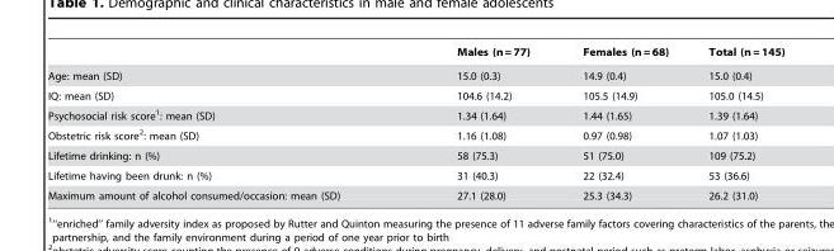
<table><thead><tr><td></td><td>Males (n = 77)</td><td>Females (n = 68)</td><td>Total (n = 145)</td></tr></thead><tbody><tr><td>Age: mean (SD)</td><td>15.0 (0.3)</td><td>14.9 (0.4)</td><td>15.0 (0.4)</td></tr><tr><td>IQ: mean (SD)</td><td>104.6 (14.2)</td><td>105.5 (14.9)</td><td>105.0 (14.5)</td></tr><tr><td>Psychosocial risk score<sup>1</sup>: mean (SD)</td><td>1.34 (1.64)</td><td>1.44 (1.65)</td><td>1.39 (1.64)</td></tr><tr><td>Obstetric risk score<sup>2</sup>: mean (SD)</td><td>1.16 (1.08)</td><td>0.97 (0.98)</td><td>1.07 (1.03)</td></tr><tr><td>Lifetime drinking: n (%)</td><td>58 (75.3)</td><td>51 (75.0)</td><td>109 (75.2)</td></tr><tr><td>Lifetime having been drunk: n (%)</td><td>31 (40.3)</td><td>22 (32.4)</td><td>53 (36.6)</td></tr><tr><td>Maximum amount of alcohol consumed/occasion: mean (SD)</td><td>27.1 (28.0)</td><td>25.3 (34.3)</td><td>26.2 (31.0)</td></tr></tbody></table>